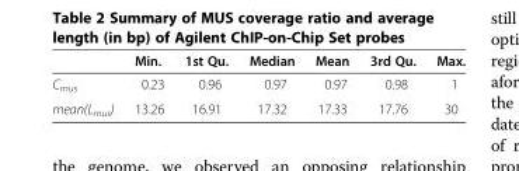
<table><thead><tr><td></td><td>Min.</td><td>1st Qu.</td><td>Median</td><td>Mean</td><td>3rd Qu.</td><td>Max.</td></tr></thead><tbody><tr><td>C<sub>mus</sub></td><td>0.23</td><td>0.96</td><td>0.97</td><td>0.97</td><td>0.98</td><td>1</td></tr><tr><td>mean(L<sub>mus</sub>)</td><td>13.26</td><td>16.91</td><td>17.32</td><td>17.33</td><td>17.76</td><td>30</td></tr></tbody></table>